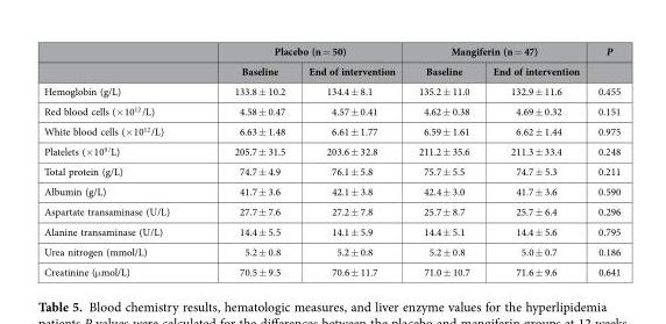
<table><thead><tr><td rowspan="2"></td><td colspan="2">Placebo (n = 50)</td><td colspan="2">Mangiferin (n = 47)</td><td rowspan="2">P</td></tr><tr><td>Baseline</td><td>End of intervention</td><td>Baseline</td><td>End of intervention</td></tr></thead><tbody><tr><td>Hemoglobin (g/L)</td><td>133.8 ± 10.2</td><td>134.4 ± 8.1</td><td>135.2 ± 11.0</td><td>132.9 ± 11.6</td><td>0.455</td></tr><tr><td>Red blood cells (× 10<sup>12</sup> /L)</td><td>4.58 ± 0.47</td><td>4.57 ± 0.41</td><td>4.62 ± 0.38</td><td>4.69 ± 0.32</td><td>0.151</td></tr><tr><td>White blood cells (× 10<sup>12</sup> /L)</td><td>6.63 ± 1.48</td><td>6.61 ± 1.77</td><td>6.59 ± 1.61</td><td>6.62 ± 1.44</td><td>0.975</td></tr><tr><td>Platelets (× 10<sup>9 /</sup>L)</td><td>205.7 ± 31.5</td><td>203.6 ± 32.8</td><td>211.2 ± 35.6</td><td>211.3 ± 33.4</td><td>0.248</td></tr><tr><td>Total protein (g/L)</td><td>74.7 ± 4.9</td><td>76.1 ± 5.8</td><td>75.7 ± 5.5</td><td>74.7 ± 5.3</td><td>0.211</td></tr><tr><td>Albumin (g/L)</td><td>41.7 ± 3.6</td><td>42.1 ± 3.8</td><td>42.4 ± 3.0</td><td>41.7 ± 3.6</td><td>0.590</td></tr><tr><td>Aspartate transaminase (U/L)</td><td>27.7 ± 7.6</td><td>27.2 ± 7.8</td><td>25.7 ± 8.7</td><td>25.7 ± 6.4</td><td>0.296</td></tr><tr><td>Alanine transaminase (U/L)</td><td>14.4 ± 5.5</td><td>14.1 ± 5.9</td><td>14.4 ± 5.1</td><td>14.4 ± 5.6</td><td>0.795</td></tr><tr><td>Urea nitrogen (mmol/L)</td><td>5.2 ± 0.8</td><td>5.2 ± 0.8</td><td>5.2 ± 0.8</td><td>5.0 ± 0.7</td><td>0.186</td></tr><tr><td>Creatinine (μ mol/L)</td><td>70.5 ± 9.5</td><td>70.6 ± 11.7</td><td>71.0 ± 10.7</td><td>71.6 ± 9.6</td><td>0.641</td></tr></tbody></table>